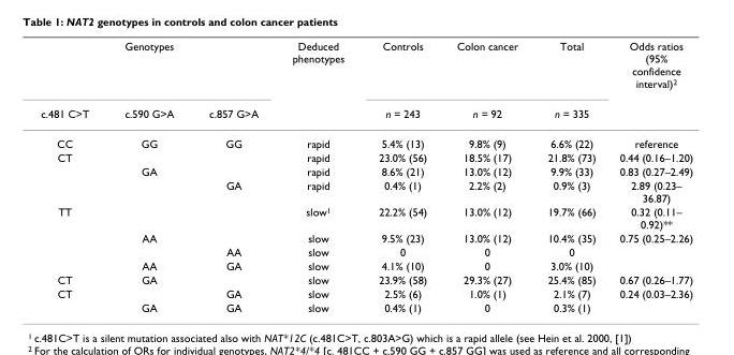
<table><thead><tr><td colspan="3">Genotypes</td><td rowspan="2">Deduced phenotypes</td><td rowspan="2">Controls n = 243</td><td rowspan="2">Colon cancer n = 92</td><td rowspan="2">Total n = 335</td><td rowspan="2">Odds ratios (95% confidence interval)<sup>2</sup></td></tr><tr><td>c.481 C&gt;T</td><td>c.590 G&gt;A</td><td>c.857 G&gt;A</td></tr></thead><tbody><tr><td>CC</td><td>GG</td><td>GG</td><td>rapid</td><td>5.4% (13)</td><td>9.8% (9)</td><td>6.6% (22)</td><td>reference</td></tr><tr><td rowspan="3">CT</td><td></td><td></td><td>rapid</td><td>23.0% (56)</td><td>18.5% (17)</td><td>21.8% (73)</td><td>0.44 (0.16–1.20)</td></tr><tr><td>GA</td><td></td><td>rapid</td><td>8.6% (21)</td><td>13.0% (12)</td><td>9.9% (33)</td><td>0.83 (0.27–2.49)</td></tr><tr><td></td><td>GA</td><td>rapid</td><td>0.4% (1)</td><td>2.2% (2)</td><td>0.9% (3)</td><td>2.89 (0.23– 36.87)</td></tr><tr><td rowspan="4">TT</td><td></td><td></td><td>slow<sup>1</sup></td><td>22.2% (54)</td><td>13.0% (12)</td><td>19.7% (66)</td><td>0.32 (0.11– 0.92)**</td></tr><tr><td>AA</td><td></td><td>slow</td><td>9.5% (23)</td><td>13.0% (12)</td><td>10.4% (35)</td><td>0.75 (0.25–2.26)</td></tr><tr><td></td><td>AA</td><td>slow</td><td>0</td><td>0</td><td>0</td><td></td></tr><tr><td>AA</td><td>GA</td><td>slow</td><td>4.1% (10)</td><td>0</td><td>3.0% (10)</td><td></td></tr><tr><td>CT</td><td>GA</td><td></td><td>slow</td><td>23.9% (58)</td><td>29.3% (27)</td><td>25.4% (85)</td><td>0.67 (0.26–1.77)</td></tr><tr><td rowspan="2">CT</td><td></td><td>GA</td><td>slow</td><td>2.5% (6)</td><td>1.0% (1)</td><td>2.1% (7)</td><td>0.24 (0.03–2.36)</td></tr><tr><td>GA</td><td>GA</td><td>slow</td><td>0.4% (1)</td><td>0</td><td>0.3% (1)</td><td></td></tr></tbody></table>